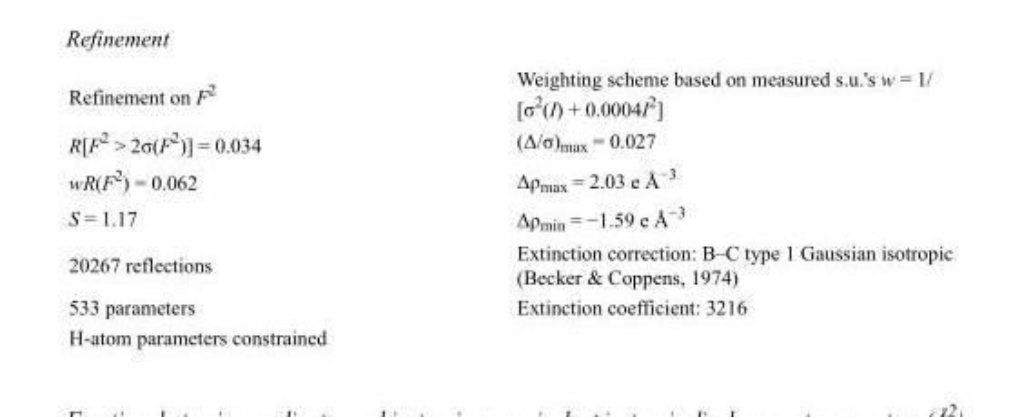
<table><tbody><tr><td>Refinement on F<sup>2</sup></td><td>Weighting scheme based on measured s.u.&#x27;s w = 1/ [σ<sup>2</sup>(I) + 0.0004I<sup>2</sup>]</td></tr><tr><td>R[F<sup>2</sup> &gt; 2σ(F<sup>2</sup>)] = 0.034</td><td>(Δ/σ)<sub>max</sub> = 0.027</td></tr><tr><td>wR(F<sup>2</sup>) = 0.062</td><td>Δρ<sub>max</sub> = 2.03 e Å<sup>−3</sup></td></tr><tr><td>S = 1.17</td><td>Δρ<sub>min</sub> = −1.59 e Å<sup>−3</sup></td></tr><tr><td>20267 reflections</td><td>Extinction correction: B–C type 1 Gaussian isotropic (Becker &amp; Coppens, 1974)</td></tr><tr><td>533 parameters</td><td>Extinction coefficient: 3216</td></tr><tr><td>H-atom parameters constrained</td><td></td></tr></tbody></table>